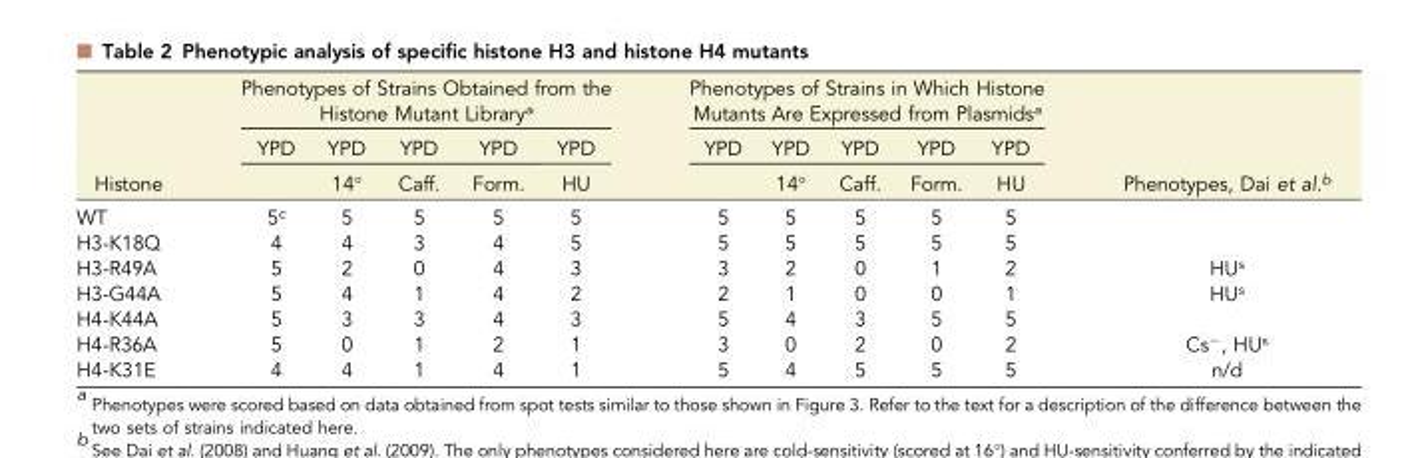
<table><thead><tr><td rowspan="3">Histone</td><td colspan="5">Phenotypes of Strains Obtained from the Histone Mutant Library<sup>a</sup></td><td colspan="5">Phenotypes of Strains in Which Histone Mutants Are Expressed from Plasmids<sup>a</sup></td><td rowspan="3">Phenotypes, Dai et al.<sup>b</sup></td></tr><tr><td rowspan="2">YPD</td><td rowspan="2">YPD 14°</td><td rowspan="2">YPD Caff.</td><td rowspan="2">YPD Form.</td><td rowspan="2">YPD HU</td><td rowspan="2">YPD</td><td rowspan="2">YPD 14°</td><td rowspan="2">YPD Caff.</td><td rowspan="2">YPD Form.</td><td rowspan="2">YPD HU</td></tr><tr></tr></thead><tbody><tr><td>WT</td><td>5<sup>c</sup></td><td>5</td><td>5</td><td>5</td><td>5</td><td>5</td><td>5</td><td>5</td><td>5</td><td>5</td><td></td></tr><tr><td>H3-K18Q</td><td>4</td><td>4</td><td>3</td><td>4</td><td>5</td><td>5</td><td>5</td><td>5</td><td>5</td><td>5</td><td></td></tr><tr><td>H3-R49A</td><td>5</td><td>2</td><td>0</td><td>4</td><td>3</td><td>3</td><td>2</td><td>0</td><td>1</td><td>2</td><td>HU<sup>s</sup></td></tr><tr><td>H3-G44A</td><td>5</td><td>4</td><td>1</td><td>4</td><td>2</td><td>2</td><td>1</td><td>0</td><td>0</td><td>1</td><td>HU<sup>s</sup></td></tr><tr><td>H4-K44A</td><td>5</td><td>3</td><td>3</td><td>4</td><td>3</td><td>5</td><td>4</td><td>3</td><td>5</td><td>5</td><td></td></tr><tr><td>H4-R36A</td><td>5</td><td>0</td><td>1</td><td>2</td><td>1</td><td>3</td><td>0</td><td>2</td><td>0</td><td>2</td><td>Cs<sup>−</sup>, HU<sup>s</sup></td></tr><tr><td>H4-K31E</td><td>4</td><td>4</td><td>1</td><td>4</td><td>1</td><td>5</td><td>4</td><td>5</td><td>5</td><td>5</td><td>n/d</td></tr></tbody></table>